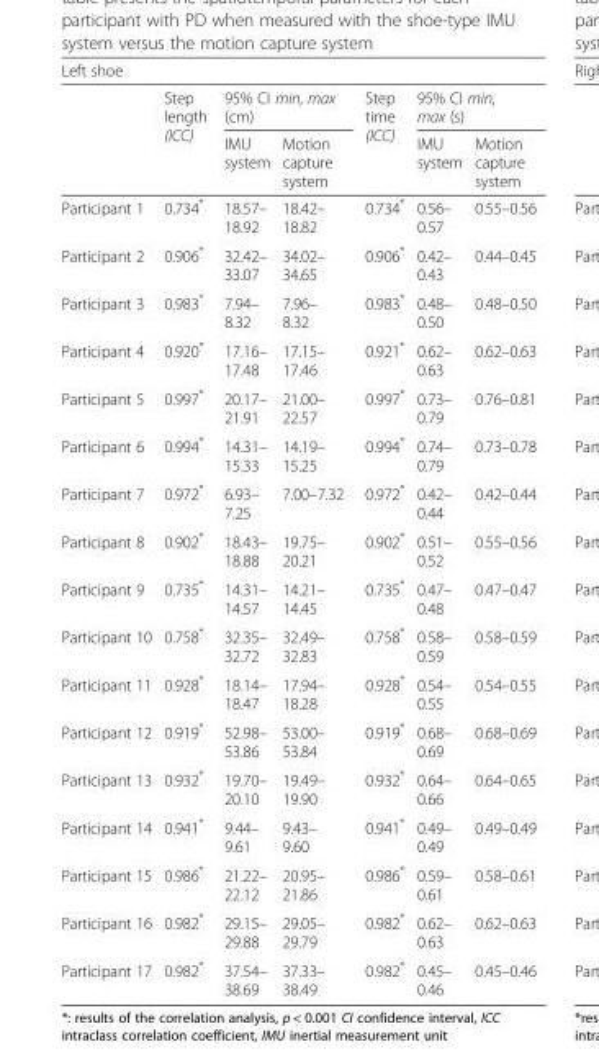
<table><thead><tr><td colspan="7">Left shoe</td></tr><tr><td rowspan="2"></td><td rowspan="2">Step length (ICC)</td><td colspan="2">95% CI min, max (cm)</td><td rowspan="2">Step time (ICC)</td><td colspan="2">95% CI min, max (s)</td></tr><tr><td>IMU system</td><td>Motion capture system</td><td>IMU system</td><td>Motion capture system</td></tr></thead><tbody><tr><td>Participant 1</td><td>0.734*</td><td>18.57– 18.92</td><td>18.42– 18.82</td><td>0.734*</td><td>0.56– 0.57</td><td>0.55–0.56</td></tr><tr><td>Participant 2</td><td>0.906*</td><td>32.42– 33.07</td><td>34.02– 34.65</td><td>0.906*</td><td>0.42– 0.43</td><td>0.44–0.45</td></tr><tr><td>Participant 3</td><td>0.983*</td><td>7.94– 8.32</td><td>7.96– 8.32</td><td>0.983*</td><td>0.48– 0.50</td><td>0.48–0.50</td></tr><tr><td>Participant 4</td><td>0.920*</td><td>17.16– 17.48</td><td>17.15– 17.46</td><td>0.921*</td><td>0.62– 0.63</td><td>0.62–0.63</td></tr><tr><td>Participant 5</td><td>0.997*</td><td>20.17– 21.91</td><td>21.00– 22.57</td><td>0.997*</td><td>0.73– 0.79</td><td>0.76–0.81</td></tr><tr><td>Participant 6</td><td>0.994*</td><td>14.31– 15.33</td><td>14.19– 15.25</td><td>0.994*</td><td>0.74– 0.79</td><td>0.73–0.78</td></tr><tr><td>Participant 7</td><td>0.972*</td><td>6.93– 7.25</td><td>7.00–7.32</td><td>0.972*</td><td>0.42– 0.44</td><td>0.42–0.44</td></tr><tr><td>Participant 8</td><td>0.902*</td><td>18.43– 18.88</td><td>19.75– 20.21</td><td>0.902*</td><td>0.51– 0.52</td><td>0.55–0.56</td></tr><tr><td>Participant 9</td><td>0.735*</td><td>14.31– 14.57</td><td>14.21– 14.45</td><td>0.735*</td><td>0.47– 0.48</td><td>0.47–0.47</td></tr><tr><td>Participant 10</td><td>0.758*</td><td>32.35– 32.72</td><td>32.49– 32.83</td><td>0.758*</td><td>0.58– 0.59</td><td>0.58–0.59</td></tr><tr><td>Participant 11</td><td>0.928*</td><td>18.14– 18.47</td><td>17.94– 18.28</td><td>0.928*</td><td>0.54– 0.55</td><td>0.54–0.55</td></tr><tr><td>Participant 12</td><td>0.919*</td><td>52.98– 53.86</td><td>53.00– 53.84</td><td>0.919*</td><td>0.68– 0.69</td><td>0.68–0.69</td></tr><tr><td>Participant 13</td><td>0.932*</td><td>19.70– 20.10</td><td>19.49– 19.90</td><td>0.932*</td><td>0.64– 0.66</td><td>0.64–0.65</td></tr><tr><td>Participant 14</td><td>0.941*</td><td>9.44– 9.61</td><td>9.43– 9.60</td><td>0.941*</td><td>0.49– 0.49</td><td>0.49–0.49</td></tr><tr><td>Participant 15</td><td>0.986*</td><td>21.22– 22.12</td><td>20.95– 21.86</td><td>0.986*</td><td>0.59– 0.61</td><td>0.58–0.61</td></tr><tr><td>Participant 16</td><td>0.982*</td><td>29.15– 29.88</td><td>29.05– 29.79</td><td>0.982*</td><td>0.62– 0.63</td><td>0.62–0.63</td></tr><tr><td>Participant 17</td><td>0.982*</td><td>37.54– 38.69</td><td>37.33– 38.49</td><td>0.982*</td><td>0.45– 0.46</td><td>0.45–0.46</td></tr></tbody></table>